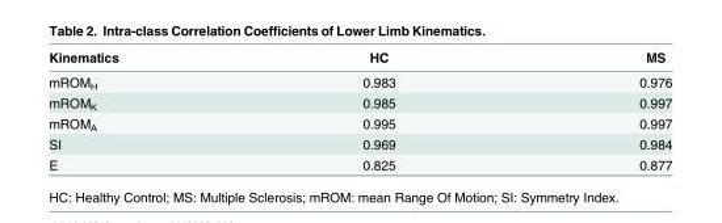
<table><thead><tr><td>Kinematics</td><td>HC</td><td>MS</td></tr></thead><tbody><tr><td>mROM<sub>H</sub></td><td>0.983</td><td>0.976</td></tr><tr><td>mROM<sub>K</sub></td><td>0.985</td><td>0.997</td></tr><tr><td>mROM<sub>A</sub></td><td>0.995</td><td>0.997</td></tr><tr><td>SI</td><td>0.969</td><td>0.984</td></tr><tr><td>E</td><td>0.825</td><td>0.877</td></tr></tbody></table>